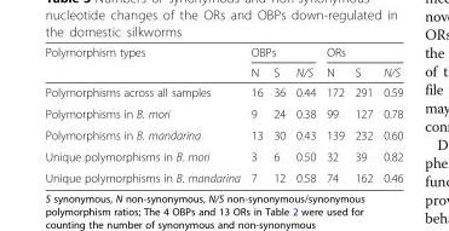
<table><thead><tr><td rowspan="2">Polymorphism types</td><td colspan="3">OBPs</td><td colspan="3">ORs</td></tr><tr><td>N</td><td>S</td><td>N/S</td><td>N</td><td>S</td><td>N/S</td></tr></thead><tbody><tr><td>Polymorphisms across all samples</td><td>16</td><td>36</td><td>0.44</td><td>172</td><td>291</td><td>0.59</td></tr><tr><td>Polymorphisms in B. mori</td><td>9</td><td>24</td><td>0.38</td><td>99</td><td>127</td><td>0.78</td></tr><tr><td>Polymorphisms in B. mandarina</td><td>13</td><td>30</td><td>0.43</td><td>139</td><td>232</td><td>0.60</td></tr><tr><td>Unique polymorphisms in B. mori</td><td>3</td><td>6</td><td>0.50</td><td>32</td><td>39</td><td>0.82</td></tr><tr><td>Unique polymorphisms in B. mandarina</td><td>7</td><td>12</td><td>0.58</td><td>74</td><td>162</td><td>0.46</td></tr></tbody></table>